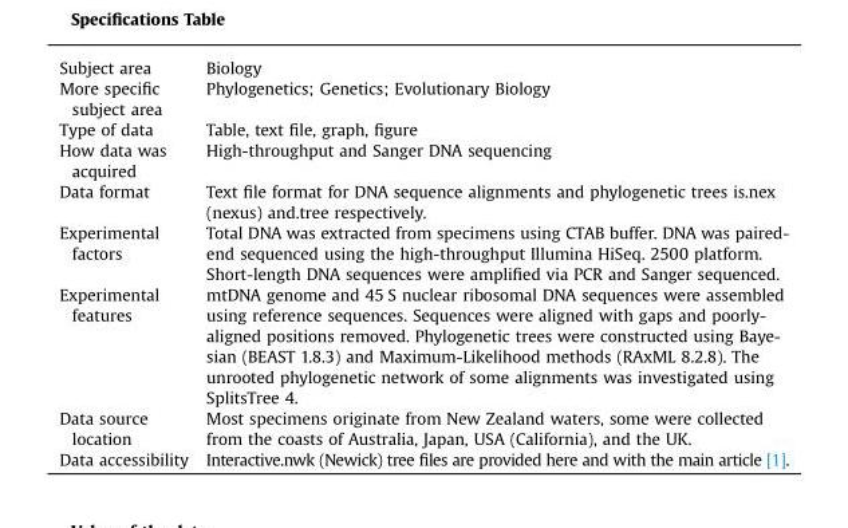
<table><thead><tr><td>Subject area</td><td>Biology</td></tr></thead><tbody><tr><td>More specific subject area</td><td>Phylogenetics; Genetics; Evolutionary Biology</td></tr><tr><td>Type of data</td><td>Table, text file, graph, figure</td></tr><tr><td>How data was acquired</td><td>High-throughput and Sanger DNA sequencing</td></tr><tr><td>Data format</td><td>Text file format for DNA sequence alignments and phylogenetic trees is.nex (nexus) and.tree respectively.</td></tr><tr><td>Experimental factors</td><td>Total DNA was extracted from specimens using CTAB buffer. DNA was paired- end sequenced using the high-throughput Illumina HiSeq. 2500 platform. Short-length DNA sequences were amplified via PCR and Sanger sequenced.</td></tr><tr><td>Experimental features</td><td>mtDNA genome and 45 S nuclear ribosomal DNA sequences were assembled using reference sequences. Sequences were aligned with gaps and poorly- aligned positions removed. Phylogenetic trees were constructed using Baye- sian (BEAST 1.8.3) and Maximum-Likelihood methods (RAxML 8.2.8). The unrooted phylogenetic network of some alignments was investigated using SplitsTree 4.</td></tr><tr><td>Data source location</td><td>Most specimens originate from New Zealand waters, some were collected from the coasts of Australia, Japan, USA (California), and the UK.</td></tr><tr><td>Data accessibility</td><td>Interactive.nwk (Newick) tree files are provided here and with the main article [1].</td></tr></tbody></table>